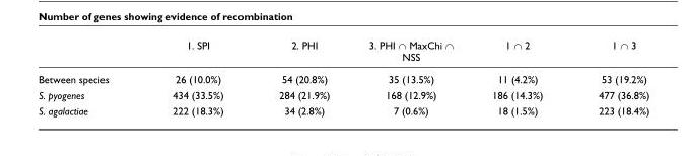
<table><thead><tr><td></td><td>1. SPI</td><td>2. PHI</td><td>3. PHI ∩ MaxChi ∩ NSS</td><td>1 ∩ 2</td><td>1 ∩ 3</td></tr></thead><tbody><tr><td>Between species</td><td>26 (10.0%)</td><td>54 (20.8%)</td><td>35 (13.5%)</td><td>11 (4.2%)</td><td>53 (19.2%)</td></tr><tr><td>S. pyogenes</td><td>434 (33.5%)</td><td>284 (21.9%)</td><td>168 (12.9%)</td><td>186 (14.3%)</td><td>477 (36.8%)</td></tr><tr><td>S. agalactiae</td><td>222 (18.3%)</td><td>34 (2.8%)</td><td>7 (0.6%)</td><td>18 (1.5%)</td><td>223 (18.4%)</td></tr></tbody></table>